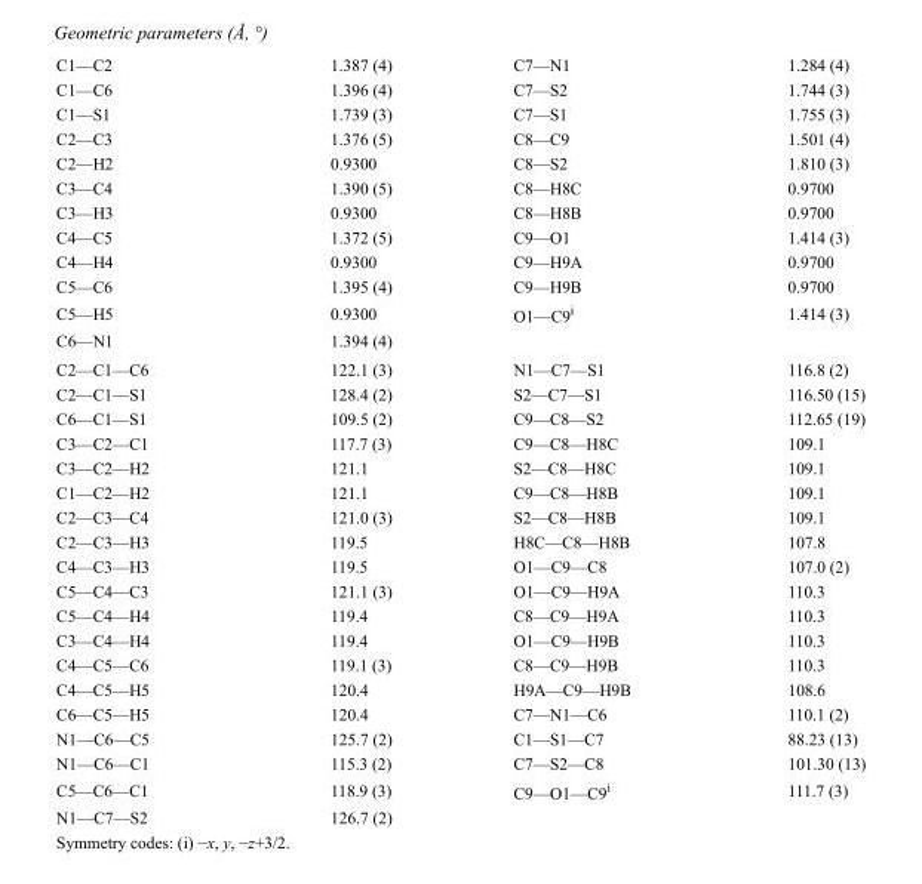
<table><tbody><tr><td>C1—C2</td><td>1.387 (4)</td><td>C7—N1</td><td>1.284 (4)</td></tr><tr><td>C1—C6</td><td>1.396 (4)</td><td>C7—S2</td><td>1.744 (3)</td></tr><tr><td>C1—S1</td><td>1.739 (3)</td><td>C7—S1</td><td>1.755 (3)</td></tr><tr><td>C2—C3</td><td>1.376 (5)</td><td>C8—C9</td><td>1.501 (4)</td></tr><tr><td>C2—H2</td><td>0.9300</td><td>C8—S2</td><td>1.810 (3)</td></tr><tr><td>C3—C4</td><td>1.390 (5)</td><td>C8—H8C</td><td>0.9700</td></tr><tr><td>C3—H3</td><td>0.9300</td><td>C8—H8B</td><td>0.9700</td></tr><tr><td>C4—C5</td><td>1.372 (5)</td><td>C9—O1</td><td>1.414 (3)</td></tr><tr><td>C4—H4</td><td>0.9300</td><td>C9—H9A</td><td>0.9700</td></tr><tr><td>C5—C6</td><td>1.395 (4)</td><td>C9—H9B</td><td>0.9700</td></tr><tr><td>C5—H5</td><td>0.9300</td><td>O1—C9<sup>i</sup></td><td>1.414 (3)</td></tr><tr><td>C6—N1</td><td>1.394 (4)</td><td></td><td></td></tr><tr><td>C2—C1—C6</td><td>122.1 (3)</td><td>N1—C7—S1</td><td>116.8 (2)</td></tr><tr><td>C2—C1—S1</td><td>128.4 (2)</td><td>S2—C7—S1</td><td>116.50 (15)</td></tr><tr><td>C6—C1—S1</td><td>109.5 (2)</td><td>C9—C8—S2</td><td>112.65 (19)</td></tr><tr><td>C3—C2—C1</td><td>117.7 (3)</td><td>C9—C8—H8C</td><td>109.1</td></tr><tr><td>C3—C2—H2</td><td>121.1</td><td>S2—C8—H8C</td><td>109.1</td></tr><tr><td>C1—C2—H2</td><td>121.1</td><td>C9—C8—H8B</td><td>109.1</td></tr><tr><td>C2—C3—C4</td><td>121.0 (3)</td><td>S2—C8—H8B</td><td>109.1</td></tr><tr><td>C2—C3—H3</td><td>119.5</td><td>H8C—C8—H8B</td><td>107.8</td></tr><tr><td>C4—C3—H3</td><td>119.5</td><td>O1—C9—C8</td><td>107.0 (2)</td></tr><tr><td>C5—C4—C3</td><td>121.1 (3)</td><td>O1—C9—H9A</td><td>110.3</td></tr><tr><td>C5—C4—H4</td><td>119.4</td><td>C8—C9—H9A</td><td>110.3</td></tr><tr><td>C3—C4—H4</td><td>119.4</td><td>O1—C9—H9B</td><td>110.3</td></tr><tr><td>C4—C5—C6</td><td>119.1 (3)</td><td>C8—C9—H9B</td><td>110.3</td></tr><tr><td>C4—C5—H5</td><td>120.4</td><td>H9A—C9—H9B</td><td>108.6</td></tr><tr><td>C6—C5—H5</td><td>120.4</td><td>C7—N1—C6</td><td>110.1 (2)</td></tr><tr><td>N1—C6—C5</td><td>125.7 (2)</td><td>C1—S1—C7</td><td>88.23 (13)</td></tr><tr><td>N1—C6—C1</td><td>115.3 (2)</td><td>C7—S2—C8</td><td>101.30 (13)</td></tr><tr><td>C5—C6—C1</td><td>118.9 (3)</td><td>C9—O1—C9<sup>i</sup></td><td>111.7 (3)</td></tr><tr><td>N1—C7—S2</td><td>126.7 (2)</td><td></td><td></td></tr></tbody></table>